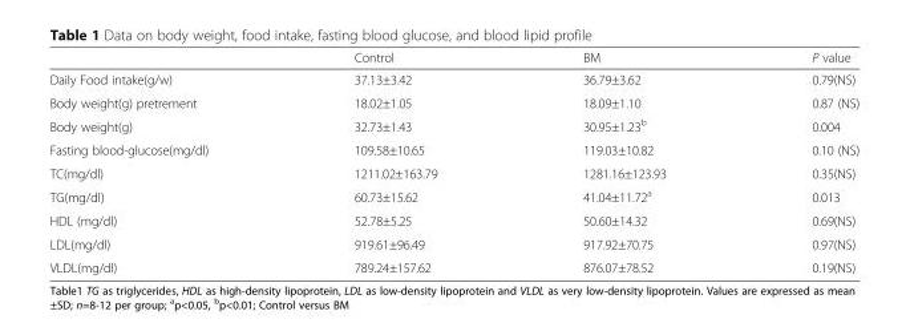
<table><thead><tr><td></td><td>Control</td><td>BM</td><td>P value</td></tr></thead><tbody><tr><td>Daily Food intake(g/w)</td><td>37.13±3.42</td><td>36.79±3.62</td><td>0.79(NS)</td></tr><tr><td>Body weight(g) pretrement</td><td>18.02±1.05</td><td>18.09±1.10</td><td>0.87 (NS)</td></tr><tr><td>Body weight(g)</td><td>32.73±1.43</td><td>30.95±1.23<sup>b</sup></td><td>0.004</td></tr><tr><td>Fasting blood-glucose(mg/dl)</td><td>109.58±10.65</td><td>119.03±10.82</td><td>0.10 (NS)</td></tr><tr><td>TC(mg/dl)</td><td>1211.02±163.79</td><td>1281.16±123.93</td><td>0.35(NS)</td></tr><tr><td>TG(mg/dl)</td><td>60.73±15.62</td><td>41.04±11.72<sup>a</sup></td><td>0.013</td></tr><tr><td>HDL (mg/dl)</td><td>52.78±5.25</td><td>50.60±14.32</td><td>0.69(NS)</td></tr><tr><td>LDL(mg/dl)</td><td>919.61±96.49</td><td>917.92±70.75</td><td>0.97(NS)</td></tr><tr><td>VLDL(mg/dl)</td><td>789.24±157.62</td><td>876.07±78.52</td><td>0.19(NS)</td></tr></tbody></table>